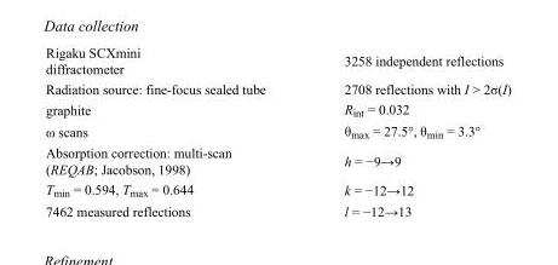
<table><tbody><tr><td>Rigaku SCXmini diffractometer</td><td>3258 independent reflections</td></tr><tr><td>Radiation source: fine-focus sealed tube</td><td>2708 reflections with I &gt; 2σ(I)</td></tr><tr><td>graphite</td><td>R<sub>int</sub> = 0.032</td></tr><tr><td>ω scans</td><td>θ<sub>max</sub> = 27.5°, θ<sub>min</sub> = 3.3°</td></tr><tr><td>Absorption correction: multi-scan (REQAB; Jacobson, 1998)</td><td>h = −9→9</td></tr><tr><td>T<sub>min</sub> = 0.594, T<sub>max</sub> = 0.644</td><td>k = −12→12</td></tr><tr><td>7462 measured reflections</td><td>l = −12→13</td></tr></tbody></table>